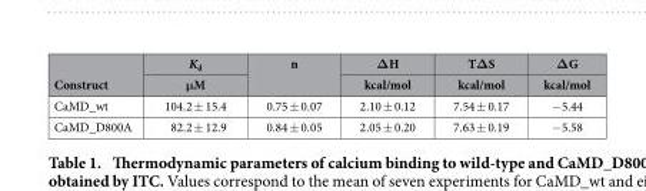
<table><thead><tr><td rowspan="2">Construct</td><td rowspan="2">K<sub>d</sub> μM</td><td rowspan="2">n</td><td rowspan="2">ΔH kcal/mol</td><td rowspan="2">TΔS kcal/mol</td><td rowspan="2">ΔG kcal/mol</td></tr><tr></tr></thead><tbody><tr><td>CaMD_wt</td><td>104.2 ± 15.4</td><td>0.75 ± 0.07</td><td>2.10 ± 0.12</td><td>7.54 ± 0.17</td><td>− 5.44</td></tr><tr><td>CaMD_D800A</td><td>82.2 ± 12.9</td><td>0.84 ± 0.05</td><td>2.05 ± 0.20</td><td>7.63 ± 0.19</td><td>− 5.58</td></tr></tbody></table>